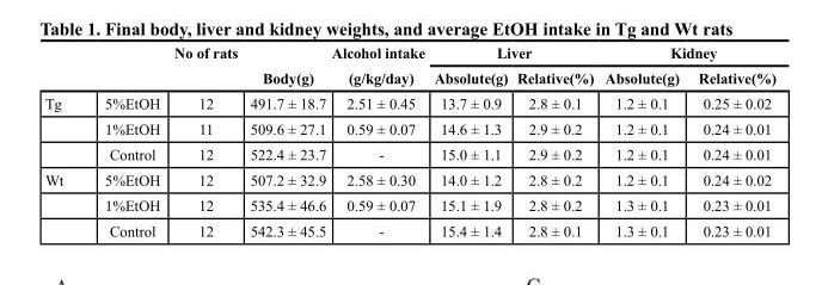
<table><thead><tr><td rowspan="2"></td><td rowspan="2"></td><td rowspan="2">No of rats</td><td rowspan="2">Body(g)</td><td rowspan="2">Alcohol intake (g/kg/day)</td><td colspan="2">Liver</td><td colspan="2">Kidney</td></tr><tr><td>Absolute(g)</td><td>Relative(%)</td><td>Absolute(g)</td><td>Relative(%)</td></tr></thead><tbody><tr><td rowspan="3">Tg</td><td>5%EtOH</td><td>12</td><td>491.7 ± 18.7</td><td>2.51 ± 0.45</td><td>13.7 ± 0.9</td><td>2.8 ± 0.1</td><td>1.2 ± 0.1</td><td>0.25 ± 0.02</td></tr><tr><td>1%EtOH</td><td>11</td><td>509.6 ± 27.1</td><td>0.59 ± 0.07</td><td>14.6 ± 1.3</td><td>2.9 ± 0.2</td><td>1.2 ± 0.1</td><td>0.24 ± 0.01</td></tr><tr><td>Control</td><td>12</td><td>522.4 ± 23.7</td><td>-</td><td>15.0 ± 1.1</td><td>2.9 ± 0.2</td><td>1.2 ± 0.1</td><td>0.24 ± 0.01</td></tr><tr><td rowspan="3">Wt</td><td>5%EtOH</td><td>12</td><td>507.2 ± 32.9</td><td>2.58 ± 0.30</td><td>14.0 ± 1.2</td><td>2.8 ± 0.2</td><td>1.2 ± 0.1</td><td>0.24 ± 0.02</td></tr><tr><td>1%EtOH</td><td>12</td><td>535.4 ± 46.6</td><td>0.59 ± 0.07</td><td>15.1 ± 1.9</td><td>2.8 ± 0.2</td><td>1.3 ± 0.1</td><td>0.23 ± 0.01</td></tr><tr><td>Control</td><td>12</td><td>542.3 ± 45.5</td><td>-</td><td>15.4 ± 1.4</td><td>2.8 ± 0.1</td><td>1.3 ± 0.1</td><td>0.23 ± 0.01</td></tr></tbody></table>